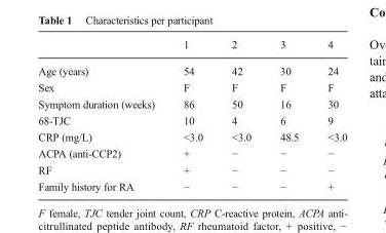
<table><thead><tr><td></td><td>1</td><td>2</td><td>3</td><td>4</td></tr></thead><tbody><tr><td>Age (years)</td><td>54</td><td>42</td><td>30</td><td>24</td></tr><tr><td>Sex</td><td>F</td><td>F</td><td>F</td><td>F</td></tr><tr><td>Symptom duration (weeks)</td><td>86</td><td>50</td><td>16</td><td>30</td></tr><tr><td>68-TJC</td><td>10</td><td>4</td><td>6</td><td>9</td></tr><tr><td>CRP (mg/L)</td><td>&lt;3.0</td><td>&lt;3.0</td><td>48.5</td><td>&lt;3.0</td></tr><tr><td>ACPA (anti-CCP2)</td><td>+</td><td>−</td><td>−</td><td>−</td></tr><tr><td>RF</td><td>+</td><td>−</td><td>−</td><td>−</td></tr><tr><td>Family history for RA</td><td>−</td><td>−</td><td>−</td><td>+</td></tr></tbody></table>